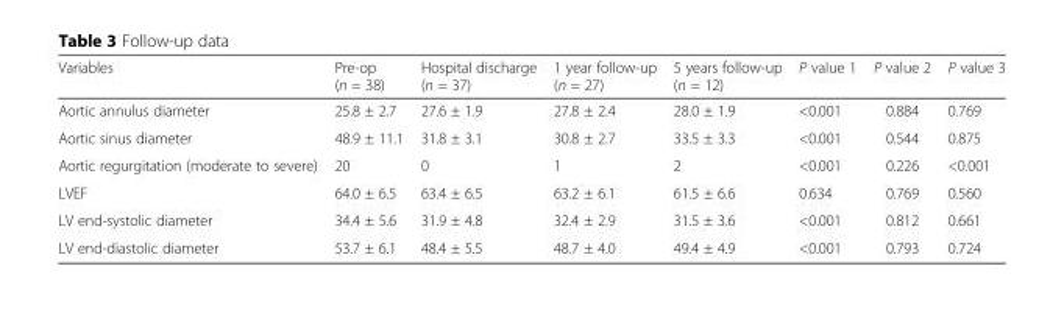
<table><thead><tr><td>Variables</td><td>Pre-op (n = 38)</td><td>Hospital discharge (n = 37)</td><td>1 year follow-up (n = 27)</td><td>5 years follow-up (n = 12)</td><td>P value 1</td><td>P value 2</td><td>P value 3</td></tr></thead><tbody><tr><td>Aortic annulus diameter</td><td>25.8 ± 2.7</td><td>27.6 ± 1.9</td><td>27.8 ± 2.4</td><td>28.0 ± 1.9</td><td>&lt;0.001</td><td>0.884</td><td>0.769</td></tr><tr><td>Aortic sinus diameter</td><td>48.9 ± 11.1</td><td>31.8 ± 3.1</td><td>30.8 ± 2.7</td><td>33.5 ± 3.3</td><td>&lt;0.001</td><td>0.544</td><td>0.875</td></tr><tr><td>Aortic regurgitation (moderate to severe)</td><td>20</td><td>0</td><td>1</td><td>2</td><td>&lt;0.001</td><td>0.226</td><td>&lt;0.001</td></tr><tr><td>LVEF</td><td>64.0 ± 6.5</td><td>63.4 ± 6.5</td><td>63.2 ± 6.1</td><td>61.5 ± 6.6</td><td>0.634</td><td>0.769</td><td>0.560</td></tr><tr><td>LV end-systolic diameter</td><td>34.4 ± 5.6</td><td>31.9 ± 4.8</td><td>32.4 ± 2.9</td><td>31.5 ± 3.6</td><td>&lt;0.001</td><td>0.812</td><td>0.661</td></tr><tr><td>LV end-diastolic diameter</td><td>53.7 ± 6.1</td><td>48.4 ± 5.5</td><td>48.7 ± 4.0</td><td>49.4 ± 4.9</td><td>&lt;0.001</td><td>0.793</td><td>0.724</td></tr></tbody></table>